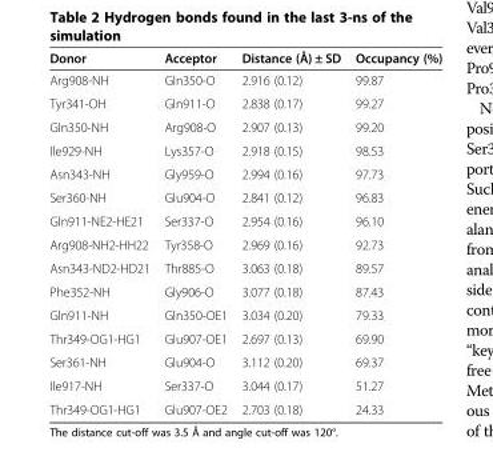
<table><thead><tr><td>Donor</td><td>Acceptor</td><td>Distance (Å) ± SD</td><td>Occupancy (%)</td></tr></thead><tbody><tr><td>Arg908-NH</td><td>Gln350-O</td><td>2.916 (0.12)</td><td>99.87</td></tr><tr><td>Tyr341-OH</td><td>Gln911-O</td><td>2.838 (0.17)</td><td>99.27</td></tr><tr><td>Gln350-NH</td><td>Arg908-O</td><td>2.907 (0.13)</td><td>99.20</td></tr><tr><td>Ile929-NH</td><td>Lys357-O</td><td>2.918 (0.15)</td><td>98.53</td></tr><tr><td>Asn343-NH</td><td>Gly959-O</td><td>2.994 (0.16)</td><td>97.73</td></tr><tr><td>Ser360-NH</td><td>Glu904-O</td><td>2.841 (0.12)</td><td>96.83</td></tr><tr><td>Gln911-NE2-HE21</td><td>Ser337-O</td><td>2.954 (0.16)</td><td>96.10</td></tr><tr><td>Arg908-NH2-HH22</td><td>Tyr358-O</td><td>2.969 (0.16)</td><td>92.73</td></tr><tr><td>Asn343-ND2-HD21</td><td>Thr885-O</td><td>3.063 (0.18)</td><td>89.57</td></tr><tr><td>Phe352-NH</td><td>Gly906-O</td><td>3.077 (0.18)</td><td>87.43</td></tr><tr><td>Gln911-NH</td><td>Gln350-OE1</td><td>3.034 (0.20)</td><td>79.33</td></tr><tr><td>Thr349-OG1-HG1</td><td>Glu907-OE1</td><td>2.697 (0.13)</td><td>69.90</td></tr><tr><td>Ser361-NH</td><td>Glu904-O</td><td>3.112 (0.20)</td><td>69.37</td></tr><tr><td>Ile917-NH</td><td>Ser337-O</td><td>3.044 (0.17)</td><td>51.27</td></tr><tr><td>Thr349-OG1-HG1</td><td>Glu907-OE2</td><td>2.703 (0.18)</td><td>24.33</td></tr></tbody></table>